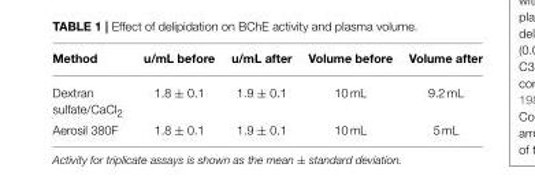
<table><thead><tr><td>Method</td><td>u/mL before</td><td>u/mL after</td><td>Volume before</td><td>Volume after</td></tr></thead><tbody><tr><td>Dextran sulfate/CaCl<sub>2</sub></td><td>1.8 ± 0.1</td><td>1.9 ± 0.1</td><td>10 mL</td><td>9.2 mL</td></tr><tr><td>Aerosil 380F</td><td>1.8 ± 0.1</td><td>1.9 ± 0.1</td><td>10 mL</td><td>5 mL</td></tr></tbody></table>